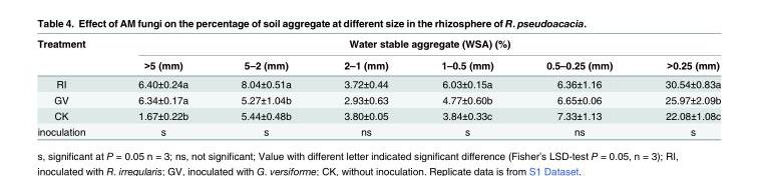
<table><thead><tr><td rowspan="2">Treatment</td><td colspan="6">Water stable aggregate (WSA) (%)</td></tr><tr><td>&gt;5 (mm)</td><td>5–2 (mm)</td><td>2–1 (mm)</td><td>1–0.5 (mm)</td><td>0.5–0.25 (mm)</td><td>&gt;0.25 (mm)</td></tr></thead><tbody><tr><td>RI</td><td>6.40±0.24a</td><td>8.04±0.51a</td><td>3.72±0.44</td><td>6.03±0.15a</td><td>6.36±1.16</td><td>30.54±0.83a</td></tr><tr><td>GV</td><td>6.34±0.17a</td><td>5.27±1.04b</td><td>2.93±0.63</td><td>4.77±0.60b</td><td>6.65±0.06</td><td>25.97±2.09b</td></tr><tr><td>CK</td><td>1.67±0.22b</td><td>5.44±0.48b</td><td>3.80±0.05</td><td>3.84±0.33c</td><td>7.33±1.13</td><td>22.08±1.08c</td></tr><tr><td>inoculation</td><td>s</td><td>s</td><td>ns</td><td>s</td><td>ns</td><td>s</td></tr></tbody></table>